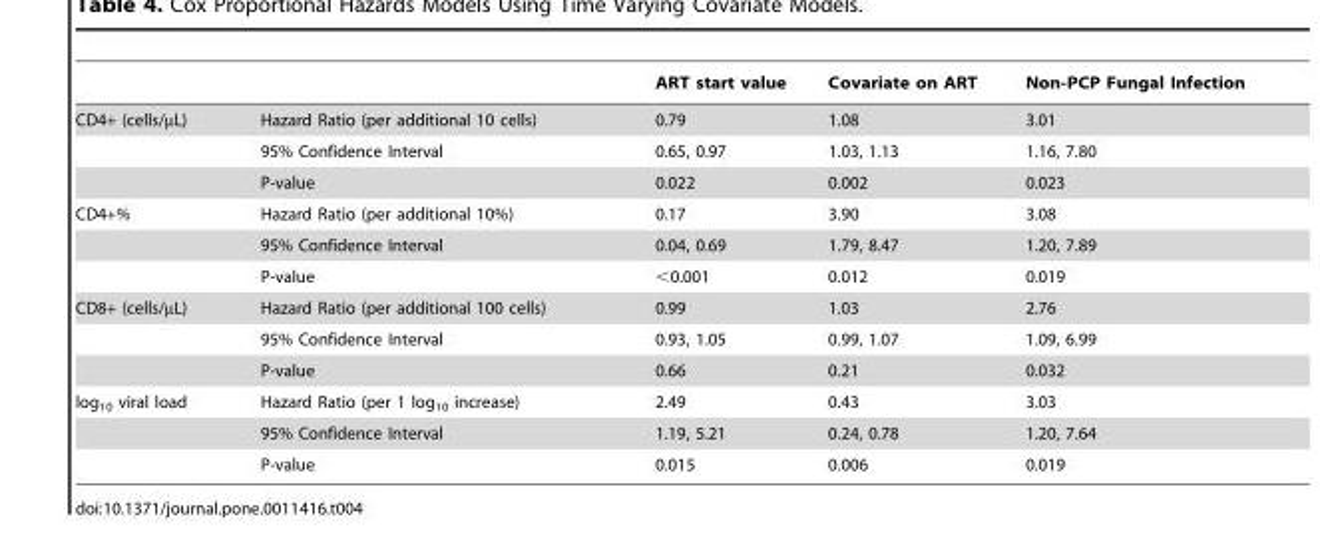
<table><thead><tr><td></td><td></td><td>ART start value</td><td>Covariate on ART</td><td>Non-PCP Fungal Infection</td></tr></thead><tbody><tr><td rowspan="3">CD4+ (cells/µL)</td><td>Hazard Ratio (per additional 10 cells)</td><td>0.79</td><td>1.08</td><td>3.01</td></tr><tr><td>95% Confidence Interval</td><td>0.65, 0.97</td><td>1.03, 1.13</td><td>1.16, 7.80</td></tr><tr><td>P-value</td><td>0.022</td><td>0.002</td><td>0.023</td></tr><tr><td rowspan="3">CD4+%</td><td>Hazard Ratio (per additional 10%)</td><td>0.17</td><td>3.90</td><td>3.08</td></tr><tr><td>95% Confidence Interval</td><td>0.04, 0.69</td><td>1.79, 8.47</td><td>1.20, 7.89</td></tr><tr><td>P-value</td><td>&lt;0.001</td><td>0.012</td><td>0.019</td></tr><tr><td rowspan="3">CD8+ (cells/µL)</td><td>Hazard Ratio (per additional 100 cells)</td><td>0.99</td><td>1.03</td><td>2.76</td></tr><tr><td>95% Confidence Interval</td><td>0.93, 1.05</td><td>0.99, 1.07</td><td>1.09, 6.99</td></tr><tr><td>P-value</td><td>0.66</td><td>0.21</td><td>0.032</td></tr><tr><td rowspan="3">log<sub>10</sub> viral load</td><td>Hazard Ratio (per 1 log<sub>10</sub> increase)</td><td>2.49</td><td>0.43</td><td>3.03</td></tr><tr><td>95% Confidence Interval</td><td>1.19, 5.21</td><td>0.24, 0.78</td><td>1.20, 7.64</td></tr><tr><td>P-value</td><td>0.015</td><td>0.006</td><td>0.019</td></tr></tbody></table>